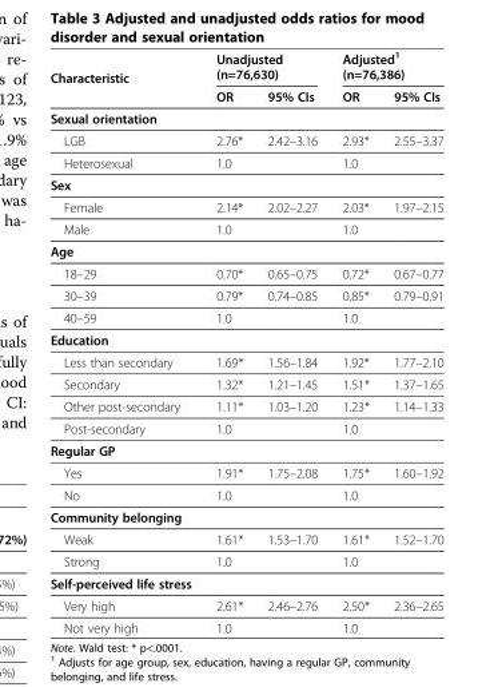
<table><thead><tr><td rowspan="2">Characteristic</td><td colspan="2">Unadjusted (n=76,630)</td><td colspan="2">Adjusted<sup>1</sup> (n=76,386)</td></tr><tr><td>OR</td><td>95% CIs</td><td>OR</td><td>95% CIs</td></tr></thead><tbody><tr><td colspan="5">Sexual orientation</td></tr><tr><td>LGB</td><td>2.76*</td><td>2.42–3.16</td><td>2.93*</td><td>2.55–3.37</td></tr><tr><td>Heterosexual</td><td>1.0</td><td></td><td>1.0</td><td></td></tr><tr><td colspan="5">Sex</td></tr><tr><td>Female</td><td>2.14*</td><td>2.02–2.27</td><td>2.03*</td><td>1.97–2.15</td></tr><tr><td>Male</td><td>1.0</td><td></td><td>1.0</td><td></td></tr><tr><td colspan="5">Age</td></tr><tr><td>18–29</td><td>0.70*</td><td>0.65–0.75</td><td>0.72*</td><td>0.67–0.77</td></tr><tr><td>30–39</td><td>0.79*</td><td>0.74–0.85</td><td>0.85*</td><td>0.79–0.91</td></tr><tr><td>40–59</td><td>1.0</td><td></td><td>1.0</td><td></td></tr><tr><td colspan="5">Education</td></tr><tr><td>Less than secondary</td><td>1.69*</td><td>1.56–1.84</td><td>1.92*</td><td>1.77–2.10</td></tr><tr><td>Secondary</td><td>1.32*</td><td>1.21–1.45</td><td>1.51*</td><td>1.37–1.65</td></tr><tr><td>Other post-secondary</td><td>1.11*</td><td>1.03–1.20</td><td>1.23*</td><td>1.14–1.33</td></tr><tr><td>Post-secondary</td><td>1.0</td><td></td><td>1.0</td><td></td></tr><tr><td colspan="5">Regular GP</td></tr><tr><td>Yes</td><td>1.91*</td><td>1.75–2.08</td><td>1.75*</td><td>1.60–1.92</td></tr><tr><td>No</td><td>1.0</td><td></td><td>1.0</td><td></td></tr><tr><td colspan="5">Community belonging</td></tr><tr><td>Weak</td><td>1.61*</td><td>1.53–1.70</td><td>1.61*</td><td>1.52–1.70</td></tr><tr><td>Strong</td><td>1.0</td><td></td><td>1.0</td><td></td></tr><tr><td colspan="5">Self-perceived life stress</td></tr><tr><td>Very high</td><td>2.61*</td><td>2.46–2.76</td><td>2.50*</td><td>2.36–2.65</td></tr><tr><td>Not very high</td><td>1.0</td><td></td><td>1.0</td><td></td></tr></tbody></table>